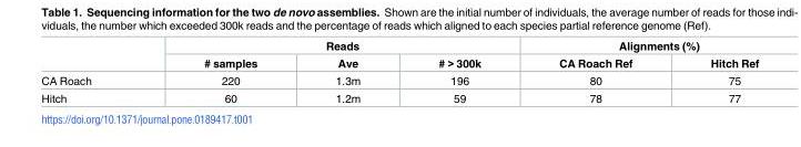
<table><thead><tr><td rowspan="2"></td><td colspan="3">Reads</td><td colspan="2">Alignments (%)</td></tr><tr><td># samples</td><td>Ave</td><td># &gt; 300k</td><td>CA Roach Ref</td><td>Hitch Ref</td></tr></thead><tbody><tr><td>CA Roach</td><td>220</td><td>1.3m</td><td>196</td><td>80</td><td>75</td></tr><tr><td>Hitch</td><td>60</td><td>1.2m</td><td>59</td><td>78</td><td>77</td></tr></tbody></table>